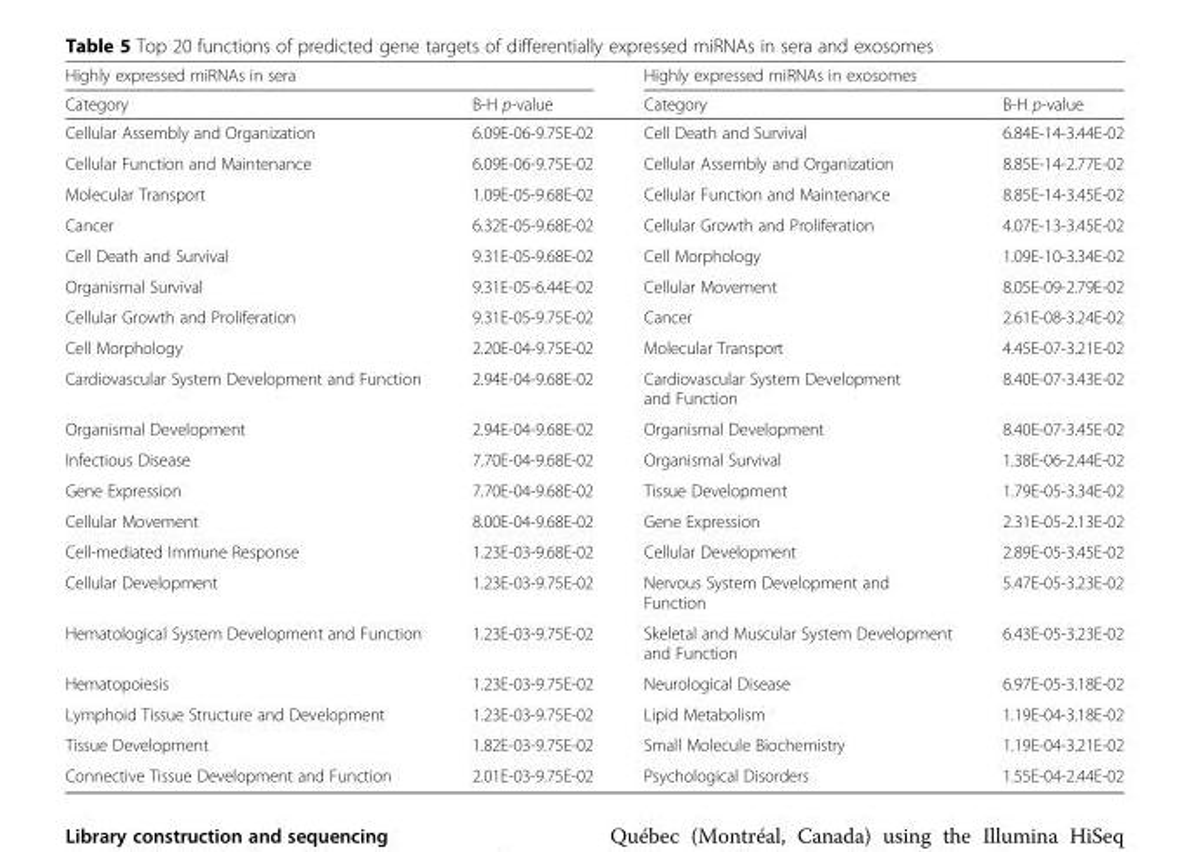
<table><thead><tr><td colspan="2">Highly expressed miRNAs in sera</td><td colspan="2">Highly expressed miRNAs in exosomes</td></tr><tr><td>Category</td><td>B-H p-value</td><td>Category</td><td>B-H p-value</td></tr></thead><tbody><tr><td>Cellular Assembly and Organization</td><td>6.09E-06-9.75E-02</td><td>Cell Death and Survival</td><td>6.84E-14-3.44E-02</td></tr><tr><td>Cellular Function and Maintenance</td><td>6.09E-06-9.75E-02</td><td>Cellular Assembly and Organization</td><td>8.85E-14-2.77E-02</td></tr><tr><td>Molecular Transport</td><td>1.09E-05-9.68E-02</td><td>Cellular Function and Maintenance</td><td>8.85E-14-3.45E-02</td></tr><tr><td>Cancer</td><td>6.32E-05-9.68E-02</td><td>Cellular Growth and Proliferation</td><td>4.07E-13-3.45E-02</td></tr><tr><td>Cell Death and Survival</td><td>9.31E-05-9.68E-02</td><td>Cell Morphology</td><td>1.09E-10-3.34E-02</td></tr><tr><td>Organismal Survival</td><td>9.31E-05-6.44E-02</td><td>Cellular Movement</td><td>8.05E-09-2.79E-02</td></tr><tr><td>Cellular Growth and Proliferation</td><td>9.31E-05-9.75E-02</td><td>Cancer</td><td>2.61E-08-3.24E-02</td></tr><tr><td>Cell Morphology</td><td>2.20E-04-9.75E-02</td><td>Molecular Transport</td><td>4.45E-07-3.21E-02</td></tr><tr><td>Cardiovascular System Development and Function</td><td>2.94E-04-9.68E-02</td><td>Cardiovascular System Development and Function</td><td>8.40E-07-3.43E-02</td></tr><tr><td>Organismal Development</td><td>2.94E-04-9.68E-02</td><td>Organismal Development</td><td>8.40E-07-3.45E-02</td></tr><tr><td>Infectious Disease</td><td>7.70E-04-9.68E-02</td><td>Organismal Survival</td><td>1.38E-06-2.44E-02</td></tr><tr><td>Gene Expression</td><td>7.70E-04-9.68E-02</td><td>Tissue Development</td><td>1.79E-05-3.34E-02</td></tr><tr><td>Cellular Movement</td><td>8.00E-04-9.68E-02</td><td>Gene Expression</td><td>2.31E-05-2.13E-02</td></tr><tr><td>Cell-mediated Immune Response</td><td>1.23E-03-9.68E-02</td><td>Cellular Development</td><td>2.89E-05-3.45E-02</td></tr><tr><td>Cellular Development</td><td>1.23E-03-9.75E-02</td><td>Nervous System Development and Function</td><td>5.47E-05-3.23E-02</td></tr><tr><td>Hematological System Development and Function</td><td>1.23E-03-9.75E-02</td><td>Skeletal and Muscular System Development and Function</td><td>6.43E-05-3.23E-02</td></tr><tr><td>Hematopoiesis</td><td>1.23E-03-9.75E-02</td><td>Neurological Disease</td><td>6.97E-05-3.18E-02</td></tr><tr><td>Lymphoid Tissue Structure and Development</td><td>1.23E-03-9.75E-02</td><td>Lipid Metabolism</td><td>1.19E-04-3.18E-02</td></tr><tr><td>Tissue Development</td><td>1.82E-03-9.75E-02</td><td>Small Molecule Biochemistry</td><td>1.19E-04-3.21E-02</td></tr><tr><td>Connective Tissue Development and Function</td><td>2.01E-03-9.75E-02</td><td>Psychological Disorders</td><td>1.55E-04-2.44E-02</td></tr></tbody></table>